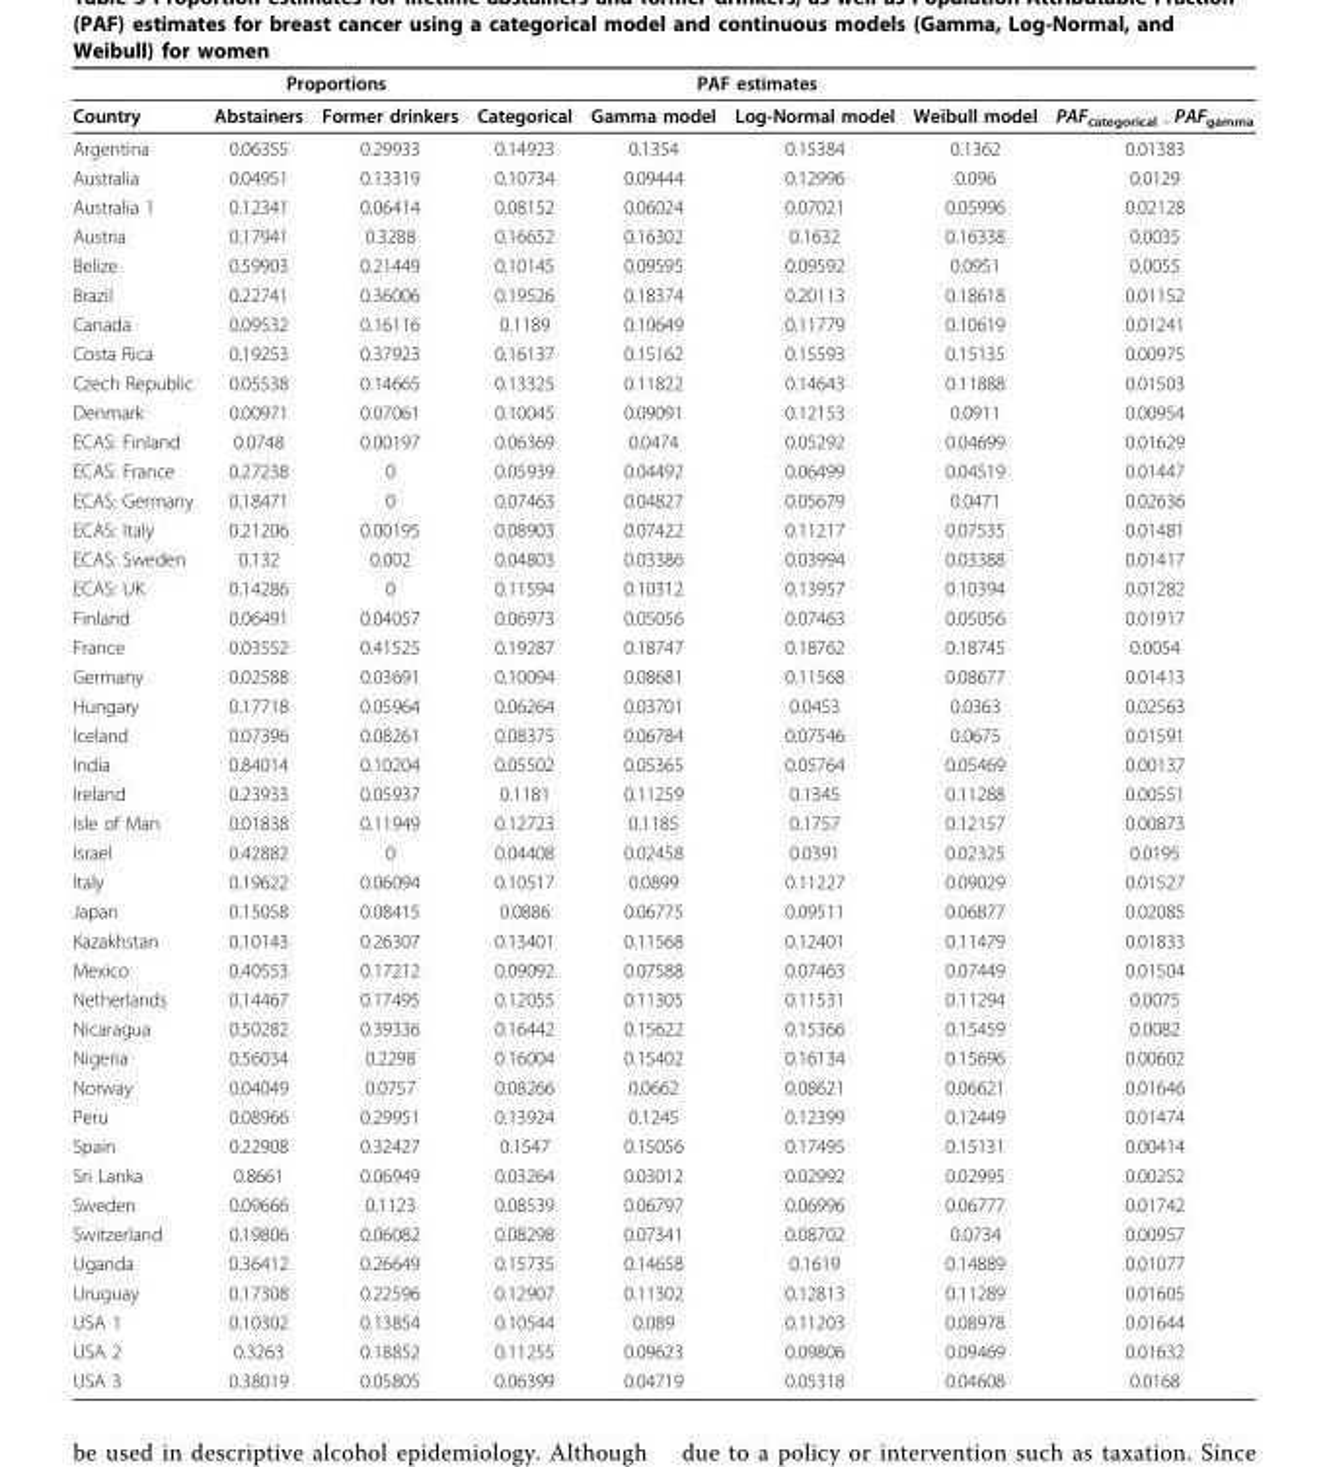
<table><thead><tr><td rowspan="2">Country</td><td colspan="2">Proportions</td><td colspan="4">PAF estimates</td><td rowspan="2">PAF<sub>categorical -</sub> PAF<sub>gamma</sub></td></tr><tr><td>Abstainers</td><td>Former drinkers</td><td>Categorical</td><td>Gamma model</td><td>Log-Normal model</td><td>Weibull model</td></tr></thead><tbody><tr><td>Argentina</td><td>0.06355</td><td>0.29933</td><td>0.14923</td><td>0.1354</td><td>0.15384</td><td>0.1362</td><td>0.01383</td></tr><tr><td>Australia</td><td>0.04951</td><td>0.13319</td><td>0.10734</td><td>0.09444</td><td>0.12996</td><td>0.096</td><td>0.0129</td></tr><tr><td>Australia 1</td><td>0.12341</td><td>0.06414</td><td>0.08152</td><td>0.06024</td><td>0.07021</td><td>0.05996</td><td>0.02128</td></tr><tr><td>Austria</td><td>0.17941</td><td>0.3288</td><td>0.16652</td><td>0.16302</td><td>0.1632</td><td>0.16338</td><td>0.0035</td></tr><tr><td>Belize</td><td>0.59903</td><td>0.21449</td><td>0.10145</td><td>0.09595</td><td>0.09592</td><td>0.0951</td><td>0.0055</td></tr><tr><td>Brazil</td><td>0.22741</td><td>0.36006</td><td>0.19526</td><td>0.18374</td><td>0.20113</td><td>0.18618</td><td>0.01152</td></tr><tr><td>Canada</td><td>0.09532</td><td>0.16116</td><td>0.1189</td><td>0.10649</td><td>0.11779</td><td>0.10619</td><td>0.01241</td></tr><tr><td>Costa Rica</td><td>0.19253</td><td>0.37923</td><td>0.16137</td><td>0.15162</td><td>0.15593</td><td>0.15135</td><td>0.00975</td></tr><tr><td>Czech Republic</td><td>0.05538</td><td>0.14665</td><td>0.13325</td><td>0.11822</td><td>0.14643</td><td>0.11888</td><td>0.01503</td></tr><tr><td>Denmark</td><td>0.00971</td><td>0.07061</td><td>0.10045</td><td>0.09091</td><td>0.12153</td><td>0.0911</td><td>0.00954</td></tr><tr><td>ECAS: Finland</td><td>0.0748</td><td>0.00197</td><td>0.06369</td><td>0.0474</td><td>0.05292</td><td>0.04699</td><td>0.01629</td></tr><tr><td>ECAS: France</td><td>0.27238</td><td>0</td><td>0.05939</td><td>0.04492</td><td>0.06499</td><td>0.04519</td><td>0.01447</td></tr><tr><td>ECAS: Germany</td><td>0.18471</td><td>0</td><td>0.07463</td><td>0.04827</td><td>0.05679</td><td>0.0471</td><td>0.02636</td></tr><tr><td>ECAS: Italy</td><td>0.21206</td><td>0.00195</td><td>0.08903</td><td>0.07422</td><td>0.11217</td><td>0.07535</td><td>0.01481</td></tr><tr><td>ECAS: Sweden</td><td>0.132</td><td>0.002</td><td>0.04803</td><td>0.03386</td><td>0.03994</td><td>0.03388</td><td>0.01417</td></tr><tr><td>ECAS: UK</td><td>0.14286</td><td>0</td><td>0.11594</td><td>0.10312</td><td>0.13957</td><td>0.10394</td><td>0.01282</td></tr><tr><td>Finland</td><td>0.06491</td><td>0.04057</td><td>0.06973</td><td>0.05056</td><td>0.07463</td><td>0.05056</td><td>0.01917</td></tr><tr><td>France</td><td>0.03552</td><td>0.41525</td><td>0.19287</td><td>0.18747</td><td>0.18762</td><td>0.18745</td><td>0.0054</td></tr><tr><td>Germany</td><td>0.02588</td><td>0.03691</td><td>0.10094</td><td>0.08681</td><td>0.11568</td><td>0.08677</td><td>0.01413</td></tr><tr><td>Hungary</td><td>0.17718</td><td>0.05964</td><td>0.06264</td><td>0.03701</td><td>0.0453</td><td>0.0363</td><td>0.02563</td></tr><tr><td>Iceland</td><td>0.07396</td><td>0.08261</td><td>0.08375</td><td>0.06784</td><td>0.07546</td><td>0.0675</td><td>0.01591</td></tr><tr><td>India</td><td>0.84014</td><td>0.10204</td><td>0.05502</td><td>0.05365</td><td>0.05764</td><td>0.05469</td><td>0.00137</td></tr><tr><td>Ireland</td><td>0.23933</td><td>0.05937</td><td>0.1181</td><td>0.11259</td><td>0.1345</td><td>0.11288</td><td>0.00551</td></tr><tr><td>Isle of Man</td><td>0.01838</td><td>0.11949</td><td>0.12723</td><td>0.1185</td><td>0.1757</td><td>0.12157</td><td>0.00873</td></tr><tr><td>Israel</td><td>0.42882</td><td>0</td><td>0.04408</td><td>0.02458</td><td>0.0391</td><td>0.02325</td><td>0.0195</td></tr><tr><td>Italy</td><td>0.19622</td><td>0.06094</td><td>0.10517</td><td>0.0899</td><td>0.11227</td><td>0.09029</td><td>0.01527</td></tr><tr><td>Japan</td><td>0.15058</td><td>0.08415</td><td>0.0886</td><td>0.06775</td><td>0.09511</td><td>0.06877</td><td>0.02085</td></tr><tr><td>Kazakhstan</td><td>0.10143</td><td>0.26307</td><td>0.13401</td><td>0.11568</td><td>0.12401</td><td>0.11479</td><td>0.01833</td></tr><tr><td>Mexico</td><td>0.40553</td><td>0.17212</td><td>0.09092</td><td>0.07588</td><td>0.07463</td><td>0.07449</td><td>0.01504</td></tr><tr><td>Netherlands</td><td>0.14467</td><td>0.17495</td><td>0.12055</td><td>0.11305</td><td>0.11531</td><td>0.11294</td><td>0.0075</td></tr><tr><td>Nicaragua</td><td>0.50282</td><td>0.39336</td><td>0.16442</td><td>0.15622</td><td>0.15366</td><td>0.15459</td><td>0.0082</td></tr><tr><td>Nigeria</td><td>0.56034</td><td>0.2298</td><td>0.16004</td><td>0.15402</td><td>0.16134</td><td>0.15696</td><td>0.00602</td></tr><tr><td>Norway</td><td>0.04049</td><td>0.0757</td><td>0.08266</td><td>0.0662</td><td>0.08621</td><td>0.06621</td><td>0.01646</td></tr><tr><td>Peru</td><td>0.08966</td><td>0.29951</td><td>0.13924</td><td>0.1245</td><td>0.12399</td><td>0.12449</td><td>0.01474</td></tr><tr><td>Spain</td><td>0.22908</td><td>0.32427</td><td>0.1547</td><td>0.15056</td><td>0.17495</td><td>0.15131</td><td>0.00414</td></tr><tr><td>Sri Lanka</td><td>0.8661</td><td>0.06949</td><td>0.03264</td><td>0.03012</td><td>0.02992</td><td>0.02995</td><td>0.00252</td></tr><tr><td>Sweden</td><td>0.09666</td><td>0.1123</td><td>0.08539</td><td>0.06797</td><td>0.06996</td><td>0.06777</td><td>0.01742</td></tr><tr><td>Switzerland</td><td>0.19806</td><td>0.06082</td><td>0.08298</td><td>0.07341</td><td>0.08702</td><td>0.0734</td><td>0.00957</td></tr><tr><td>Uganda</td><td>0.36412</td><td>0.26649</td><td>0.15735</td><td>0.14658</td><td>0.1619</td><td>0.14889</td><td>0.01077</td></tr><tr><td>Uruguay</td><td>0.17308</td><td>0.22596</td><td>0.12907</td><td>0.11302</td><td>0.12813</td><td>0.11289</td><td>0.01605</td></tr><tr><td>USA 1</td><td>0.10302</td><td>0.13854</td><td>0.10544</td><td>0.089</td><td>0.11203</td><td>0.08978</td><td>0.01644</td></tr><tr><td>USA 2</td><td>0.3263</td><td>0.18852</td><td>0.11255</td><td>0.09623</td><td>0.09806</td><td>0.09469</td><td>0.01632</td></tr><tr><td>USA 3</td><td>0.38019</td><td>0.05805</td><td>0.06399</td><td>0.04719</td><td>0.05318</td><td>0.04608</td><td>0.0168</td></tr></tbody></table>